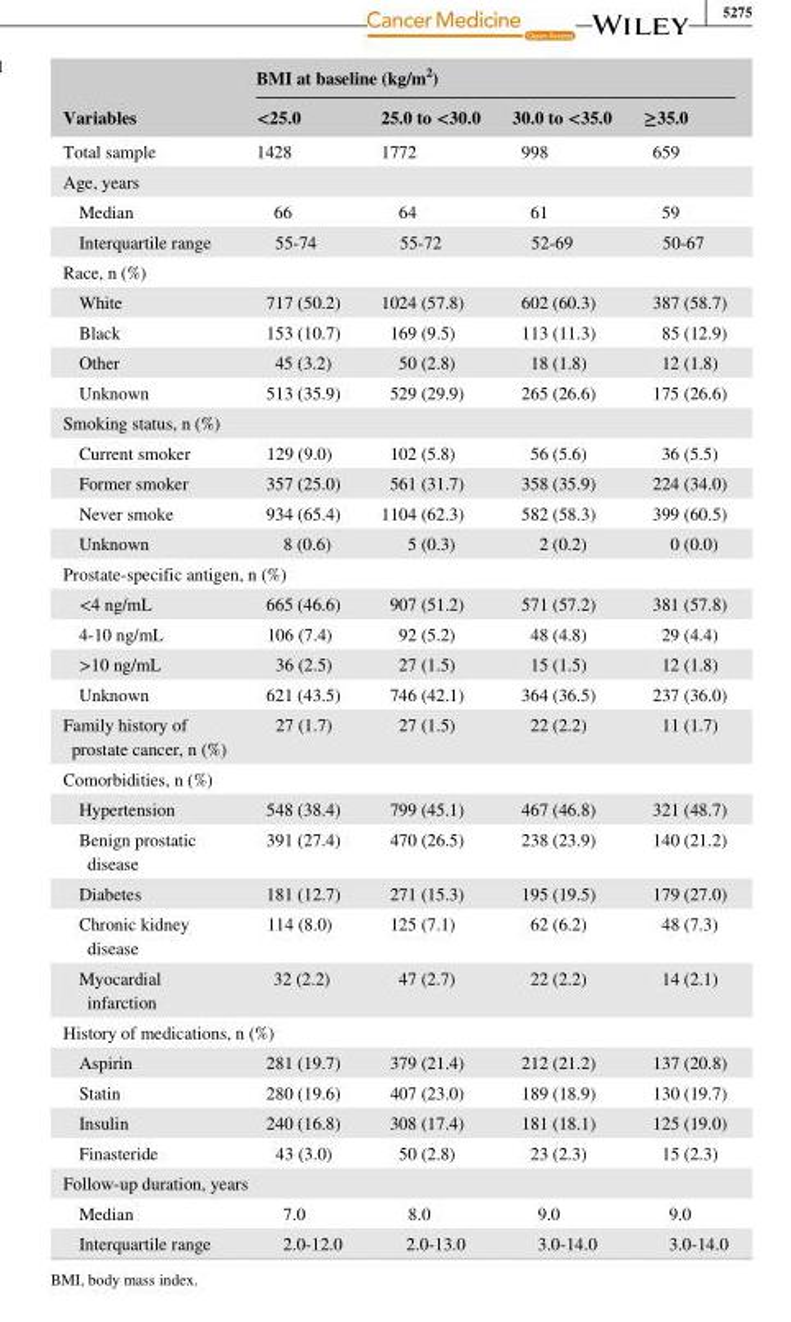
<table><thead><tr><td rowspan="2">Variables</td><td colspan="4">BMI at baseline (kg/m<sup>2</sup>)</td></tr><tr><td>&lt;25.0</td><td>25.0 to &lt;30.0</td><td>30.0 to &lt;35.0</td><td>≥35.0</td></tr></thead><tbody><tr><td>Total sample</td><td>1428</td><td>1772</td><td>998</td><td>659</td></tr><tr><td colspan="5">Age, years</td></tr><tr><td>Median</td><td>66</td><td>64</td><td>61</td><td>59</td></tr><tr><td>Interquartile range</td><td>55- 74</td><td>55- 72</td><td>52- 69</td><td>50- 67</td></tr><tr><td colspan="5">Race, n (%)</td></tr><tr><td>White</td><td>717 (50.2)</td><td>1024 (57.8)</td><td>602 (60.3)</td><td>387 (58.7)</td></tr><tr><td>Black</td><td>153 (10.7)</td><td>169 (9.5)</td><td>113 (11.3)</td><td>85 (12.9)</td></tr><tr><td>Other</td><td>45 (3.2)</td><td>50 (2.8)</td><td>18 (1.8)</td><td>12 (1.8)</td></tr><tr><td>Unknown</td><td>513 (35.9)</td><td>529 (29.9)</td><td>265 (26.6)</td><td>175 (26.6)</td></tr><tr><td colspan="5">Smoking status, n (%)</td></tr><tr><td>Current smoker</td><td>129 (9.0)</td><td>102 (5.8)</td><td>56 (5.6)</td><td>36 (5.5)</td></tr><tr><td>Former smoker</td><td>357 (25.0)</td><td>561 (31.7)</td><td>358 (35.9)</td><td>224 (34.0)</td></tr><tr><td>Never smoke</td><td>934 (65.4)</td><td>1104 (62.3)</td><td>582 (58.3)</td><td>399 (60.5)</td></tr><tr><td>Unknown</td><td>8 (0.6)</td><td>5 (0.3)</td><td>2 (0.2)</td><td>0 (0.0)</td></tr><tr><td colspan="5">Prostate- specific antigen, n (%)</td></tr><tr><td>&lt;4 ng/mL</td><td>665 (46.6)</td><td>907 (51.2)</td><td>571 (57.2)</td><td>381 (57.8)</td></tr><tr><td>4- 10 ng/mL</td><td>106 (7.4)</td><td>92 (5.2)</td><td>48 (4.8)</td><td>29 (4.4)</td></tr><tr><td>&gt;10 ng/mL</td><td>36 (2.5)</td><td>27 (1.5)</td><td>15 (1.5)</td><td>12 (1.8)</td></tr><tr><td>Unknown</td><td>621 (43.5)</td><td>746 (42.1)</td><td>364 (36.5)</td><td>237 (36.0)</td></tr><tr><td>Family history of prostate cancer, n (%)</td><td>27 (1.7)</td><td>27 (1.5)</td><td>22 (2.2)</td><td>11 (1.7)</td></tr><tr><td colspan="5">Comorbidities, n (%)</td></tr><tr><td>Hypertension</td><td>548 (38.4)</td><td>799 (45.1)</td><td>467 (46.8)</td><td>321 (48.7)</td></tr><tr><td>Benign prostatic disease</td><td>391 (27.4)</td><td>470 (26.5)</td><td>238 (23.9)</td><td>140 (21.2)</td></tr><tr><td>Diabetes</td><td>181 (12.7)</td><td>271 (15.3)</td><td>195 (19.5)</td><td>179 (27.0)</td></tr><tr><td>Chronic kidney disease</td><td>114 (8.0)</td><td>125 (7.1)</td><td>62 (6.2)</td><td>48 (7.3)</td></tr><tr><td>Myocardial infarction</td><td>32 (2.2)</td><td>47 (2.7)</td><td>22 (2.2)</td><td>14 (2.1)</td></tr><tr><td colspan="5">History of medications, n (%)</td></tr><tr><td>Aspirin</td><td>281 (19.7)</td><td>379 (21.4)</td><td>212 (21.2)</td><td>137 (20.8)</td></tr><tr><td>Statin</td><td>280 (19.6)</td><td>407 (23.0)</td><td>189 (18.9)</td><td>130 (19.7)</td></tr><tr><td>Insulin</td><td>240 (16.8)</td><td>308 (17.4)</td><td>181 (18.1)</td><td>125 (19.0)</td></tr><tr><td>Finasteride</td><td>43 (3.0)</td><td>50 (2.8)</td><td>23 (2.3)</td><td>15 (2.3)</td></tr><tr><td colspan="5">Follow- up duration, years</td></tr><tr><td>Median</td><td>7.0</td><td>8.0</td><td>9.0</td><td>9.0</td></tr><tr><td>Interquartile range</td><td>2.0- 12.0</td><td>2.0- 13.0</td><td>3.0- 14.0</td><td>3.0- 14.0</td></tr></tbody></table>